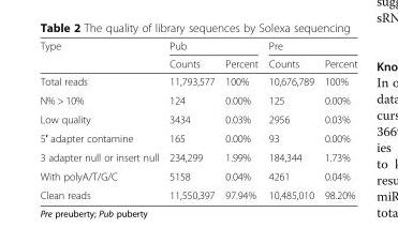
<table><thead><tr><td rowspan="2">Type</td><td colspan="2">Pub</td><td colspan="2">Pre</td></tr><tr><td>Counts</td><td>Percent</td><td>Counts</td><td>Percent</td></tr></thead><tbody><tr><td>Total reads</td><td>11,793,577</td><td>100%</td><td>10,676,789</td><td>100%</td></tr><tr><td>N% &gt; 10%</td><td>124</td><td>0.00%</td><td>125</td><td>0.00%</td></tr><tr><td>Low quality</td><td>3434</td><td>0.03%</td><td>2956</td><td>0.03%</td></tr><tr><td>5′ adapter contamine</td><td>165</td><td>0.00%</td><td>93</td><td>0.00%</td></tr><tr><td>3 adapter null or insert null</td><td>234,299</td><td>1.99%</td><td>184,344</td><td>1.73%</td></tr><tr><td>With polyA/T/G/C</td><td>5158</td><td>0.04%</td><td>4261</td><td>0.04%</td></tr><tr><td>Clean reads</td><td>11,550,397</td><td>97.94%</td><td>10,485,010</td><td>98.20%</td></tr></tbody></table>